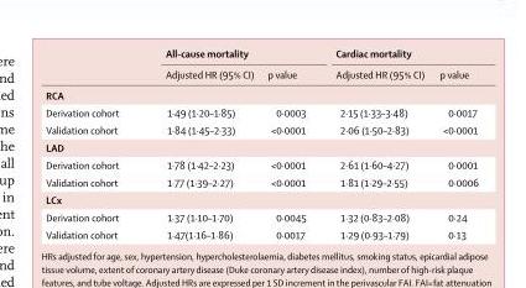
<table><thead><tr><td rowspan="2"></td><td colspan="2">All-cause mortality</td><td colspan="2">Cardiac mortality</td></tr><tr><td>Adjusted HR (95% CI)</td><td>p value</td><td>Adjusted HR (95% CI)</td><td>p value</td></tr></thead><tbody><tr><td colspan="5">RCA</td></tr><tr><td>Derivation cohort</td><td>1·49 (1·20–1·85)</td><td>0·0003</td><td>2·15 (1·33–3·48)</td><td>0·0017</td></tr><tr><td>Validation cohort</td><td>1·84 (1·45–2·33)</td><td>&lt;0·0001</td><td>2·06 (1·50–2·83)</td><td>&lt;0·0001</td></tr><tr><td colspan="5">LAD</td></tr><tr><td>Derivation cohort</td><td>1·78 (1·42–2·23)</td><td>&lt;0·0001</td><td>2·61 (1·60–4·27)</td><td>0·0001</td></tr><tr><td>Validation cohort</td><td>1·77 (1·39–2·27)</td><td>&lt;0·0001</td><td>1·81 (1·29–2·55)</td><td>0·0006</td></tr><tr><td colspan="5">LCx</td></tr><tr><td>Derivation cohort</td><td>1·37 (1·10–1·70)</td><td>0·0045</td><td>1·32 (0·83–2·08)</td><td>0·24</td></tr><tr><td>Validation cohort</td><td>1·47(1·16–1·86)</td><td>0·0017</td><td>1·29 (0·93–1·79)</td><td>0·13</td></tr></tbody></table>